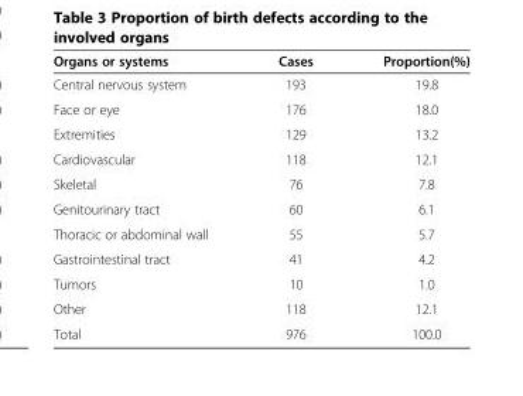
<table><thead><tr><td>Organs or systems</td><td>Cases</td><td>Proportion(%)</td></tr></thead><tbody><tr><td>Central nervous system</td><td>193</td><td>19.8</td></tr><tr><td>Face or eye</td><td>176</td><td>18.0</td></tr><tr><td>Extremities</td><td>129</td><td>13.2</td></tr><tr><td>Cardiovascular</td><td>118</td><td>12.1</td></tr><tr><td>Skeletal</td><td>76</td><td>7.8</td></tr><tr><td>Genitourinary tract</td><td>60</td><td>6.1</td></tr><tr><td>Thoracic or abdominal wall</td><td>55</td><td>5.7</td></tr><tr><td>Gastrointestinal tract</td><td>41</td><td>4.2</td></tr><tr><td>Tumors</td><td>10</td><td>1.0</td></tr><tr><td>Other</td><td>118</td><td>12.1</td></tr><tr><td>Total</td><td>976</td><td>100.0</td></tr></tbody></table>